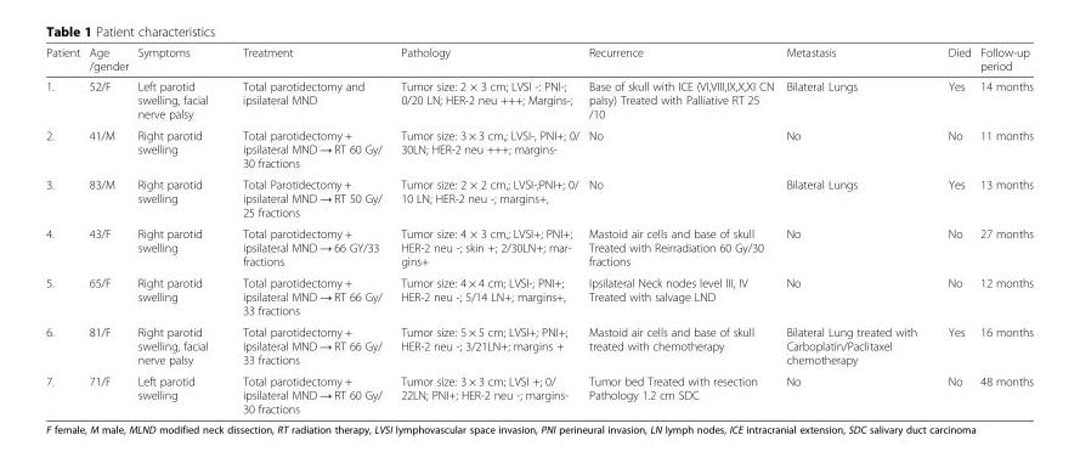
<table><thead><tr><td>Patient</td><td>Age /gender</td><td>Symptoms</td><td>Treatment</td><td>Pathology</td><td>Recurrence</td><td>Metastasis</td><td>Died</td><td>Follow-up period</td></tr></thead><tbody><tr><td>1.</td><td>52/F</td><td>Left parotid swelling, facial nerve palsy</td><td>Total parotidectomy and ipsilateral MND</td><td>Tumor size: 2 × 3 cm; LVSI -: PNI-; 0/20 LN; HER-2 neu +++; Margins-;</td><td>Base of skull with ICE (VI,VIII,IX,X,XI CN palsy) Treated with Palliative RT 25 /10</td><td>Bilateral Lungs</td><td>Yes</td><td>14 months</td></tr><tr><td>2.</td><td>41/M</td><td>Right parotid swelling</td><td>Total parotidectomy + ipsilateral MND → RT 60 Gy/ 30 fractions</td><td>Tumor size: 3 × 3 cm,; LVSI-, PNI+; 0/ 30LN; HER-2 neu +++; margins-</td><td>No</td><td>No</td><td>No</td><td>11 months</td></tr><tr><td>3.</td><td>83/M</td><td>Right parotid swelling</td><td>Total Parotidectomy + ipsilateral MND → RT 50 Gy/ 25 fractions</td><td>Tumor size: 2 × 2 cm,; LVSI-;PNI+; 0/ 10 LN; HER-2 neu -; margins+,</td><td>No</td><td>Bilateral Lungs</td><td>Yes</td><td>13 months</td></tr><tr><td>4.</td><td>43/F</td><td>Right parotid swelling</td><td>Total parotidectomy + ipsilateral MND → 66 GY/33 fractions</td><td>Tumor size: 4 × 3 cm,; LVSI+; PNI+; HER-2 neu -; skin +; 2/30LN+; mar- gins+</td><td>Mastoid air cells and base of skull Treated with Reirradiation 60 Gy/30 fractions</td><td>No</td><td>No</td><td>27 months</td></tr><tr><td>5.</td><td>65/F</td><td>Right parotid swelling</td><td>Total parotidectomy + ipsilateral MND → RT 66 Gy/ 33 fractions</td><td>Tumor size: 4 × 4 cm; LVSI-; PNI+; HER-2 neu -; 5/14 LN+; margins+,</td><td>Ipsilateral Neck nodes level III, IV Treated with salvage LND</td><td>No</td><td>No</td><td>12 months</td></tr><tr><td>6.</td><td>81/F</td><td>Right parotid swelling, facial nerve palsy</td><td>Total parotidectomy + ipsilateral MND → RT 66 Gy/ 33 fractions</td><td>Tumor size: 5 × 5 cm; LVSI+; PNI+; HER-2 neu -; 3/21LN+; margins +</td><td>Mastoid air cells and base of skull treated with chemotherapy</td><td>Bilateral Lung treated with Carboplatin/Paclitaxel chemotherapy</td><td>Yes</td><td>16 months</td></tr><tr><td>7.</td><td>71/F</td><td>Left parotid swelling</td><td>Total parotidectomy + ipsilateral MND → RT 60 Gy/ 30 fractions</td><td>Tumor size: 3 × 3 cm; LVSI +; 0/ 22LN; PNI+; HER-2 neu -; margins-</td><td>Tumor bed Treated with resection Pathology 1.2 cm SDC</td><td>No</td><td>No</td><td>48 months</td></tr></tbody></table>